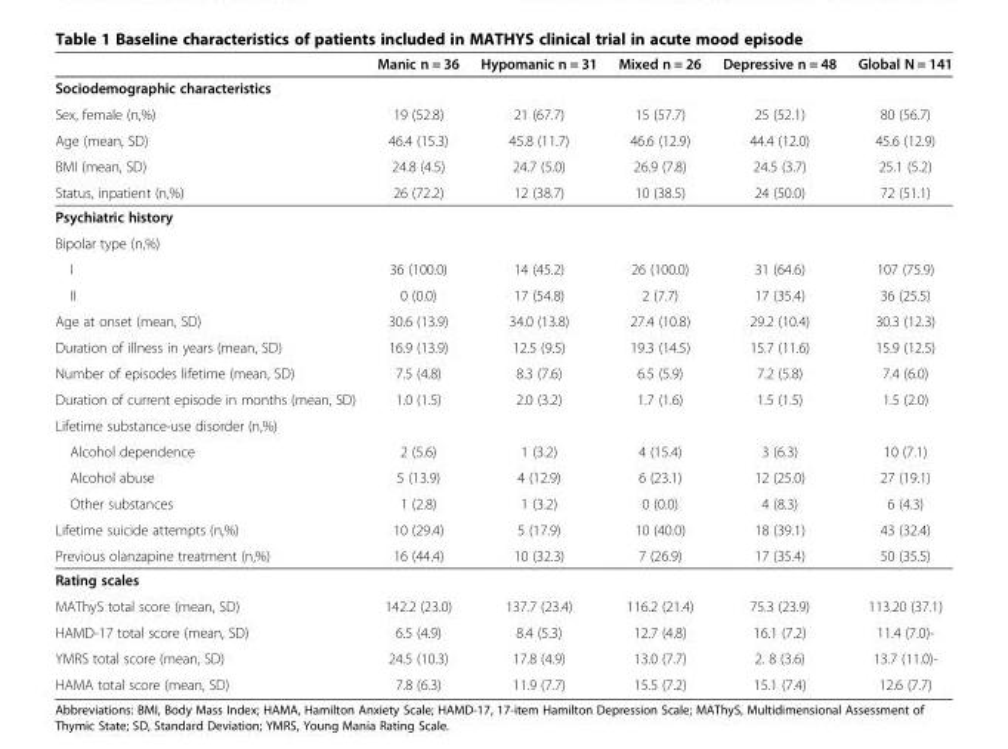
<table><thead><tr><td></td><td>Manic n = 36</td><td>Hypomanic n = 31</td><td>Mixed n = 26</td><td>Depressive n = 48</td><td>Global N = 141</td></tr></thead><tbody><tr><td colspan="6">Sociodemographic characteristics</td></tr><tr><td>Sex, female (n,%)</td><td>19 (52.8)</td><td>21 (67.7)</td><td>15 (57.7)</td><td>25 (52.1)</td><td>80 (56.7)</td></tr><tr><td>Age (mean, SD)</td><td>46.4 (15.3)</td><td>45.8 (11.7)</td><td>46.6 (12.9)</td><td>44.4 (12.0)</td><td>45.6 (12.9)</td></tr><tr><td>BMI (mean, SD)</td><td>24.8 (4.5)</td><td>24.7 (5.0)</td><td>26.9 (7.8)</td><td>24.5 (3.7)</td><td>25.1 (5.2)</td></tr><tr><td>Status, inpatient (n,%)</td><td>26 (72.2)</td><td>12 (38.7)</td><td>10 (38.5)</td><td>24 (50.0)</td><td>72 (51.1)</td></tr><tr><td colspan="6">Psychiatric history</td></tr><tr><td colspan="6">Bipolar type (n,%)</td></tr><tr><td>I</td><td>36 (100.0)</td><td>14 (45.2)</td><td>26 (100.0)</td><td>31 (64.6)</td><td>107 (75.9)</td></tr><tr><td>II</td><td>0 (0.0)</td><td>17 (54.8)</td><td>2 (7.7)</td><td>17 (35.4)</td><td>36 (25.5)</td></tr><tr><td>Age at onset (mean, SD)</td><td>30.6 (13.9)</td><td>34.0 (13.8)</td><td>27.4 (10.8)</td><td>29.2 (10.4)</td><td>30.3 (12.3)</td></tr><tr><td>Duration of illness in years (mean, SD)</td><td>16.9 (13.9)</td><td>12.5 (9.5)</td><td>19.3 (14.5)</td><td>15.7 (11.6)</td><td>15.9 (12.5)</td></tr><tr><td>Number of episodes lifetime (mean, SD)</td><td>7.5 (4.8)</td><td>8.3 (7.6)</td><td>6.5 (5.9)</td><td>7.2 (5.8)</td><td>7.4 (6.0)</td></tr><tr><td>Duration of current episode in months (mean, SD)</td><td>1.0 (1.5)</td><td>2.0 (3.2)</td><td>1.7 (1.6)</td><td>1.5 (1.5)</td><td>1.5 (2.0)</td></tr><tr><td colspan="6">Lifetime substance-use disorder (n,%)</td></tr><tr><td>Alcohol dependence</td><td>2 (5.6)</td><td>1 (3.2)</td><td>4 (15.4)</td><td>3 (6.3)</td><td>10 (7.1)</td></tr><tr><td>Alcohol abuse</td><td>5 (13.9)</td><td>4 (12.9)</td><td>6 (23.1)</td><td>12 (25.0)</td><td>27 (19.1)</td></tr><tr><td>Other substances</td><td>1 (2.8)</td><td>1 (3.2)</td><td>0 (0.0)</td><td>4 (8.3)</td><td>6 (4.3)</td></tr><tr><td>Lifetime suicide attempts (n,%)</td><td>10 (29.4)</td><td>5 (17.9)</td><td>10 (40.0)</td><td>18 (39.1)</td><td>43 (32.4)</td></tr><tr><td>Previous olanzapine treatment (n,%)</td><td>16 (44.4)</td><td>10 (32.3)</td><td>7 (26.9)</td><td>17 (35.4)</td><td>50 (35.5)</td></tr><tr><td colspan="6">Rating scales</td></tr><tr><td>MAThyS total score (mean, SD)</td><td>142.2 (23.0)</td><td>137.7 (23.4)</td><td>116.2 (21.4)</td><td>75.3 (23.9)</td><td>113.20 (37.1)</td></tr><tr><td>HAMD-17 total score (mean, SD)</td><td>6.5 (4.9)</td><td>8.4 (5.3)</td><td>12.7 (4.8)</td><td>16.1 (7.2)</td><td>11.4 (7.0)-</td></tr><tr><td>YMRS total score (mean, SD)</td><td>24.5 (10.3)</td><td>17.8 (4.9)</td><td>13.0 (7.7)</td><td>2. 8 (3.6)</td><td>13.7 (11.0)-</td></tr><tr><td>HAMA total score (mean, SD)</td><td>7.8 (6.3)</td><td>11.9 (7.7)</td><td>15.5 (7.2)</td><td>15.1 (7.4)</td><td>12.6 (7.7)</td></tr></tbody></table>